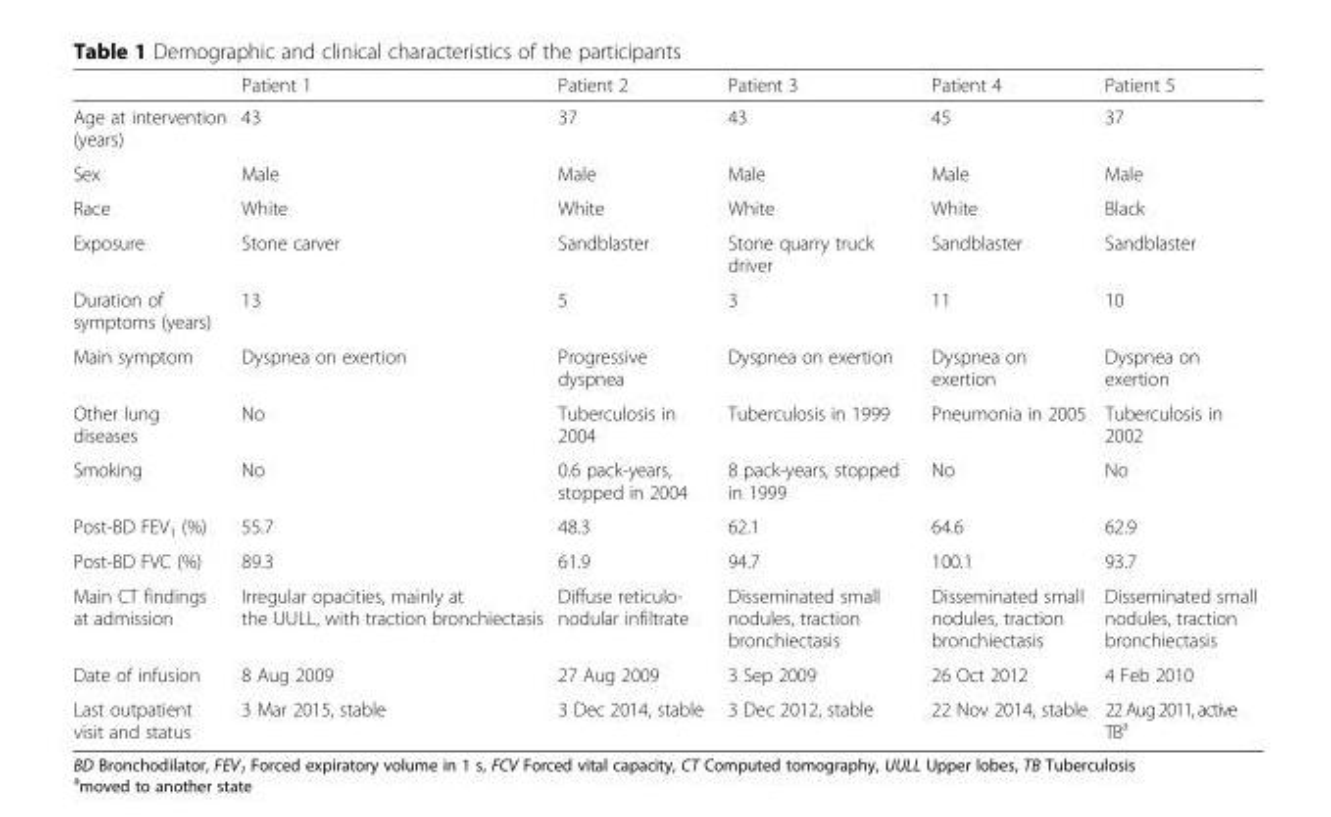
<table><thead><tr><td></td><td>Patient 1</td><td>Patient 2</td><td>Patient 3</td><td>Patient 4</td><td>Patient 5</td></tr></thead><tbody><tr><td>Age at intervention (years)</td><td>43</td><td>37</td><td>43</td><td>45</td><td>37</td></tr><tr><td>Sex</td><td>Male</td><td>Male</td><td>Male</td><td>Male</td><td>Male</td></tr><tr><td>Race</td><td>White</td><td>White</td><td>White</td><td>White</td><td>Black</td></tr><tr><td>Exposure</td><td>Stone carver</td><td>Sandblaster</td><td>Stone quarry truck driver</td><td>Sandblaster</td><td>Sandblaster</td></tr><tr><td>Duration of symptoms (years)</td><td>13</td><td>5</td><td>3</td><td>11</td><td>10</td></tr><tr><td>Main symptom</td><td>Dyspnea on exertion</td><td>Progressive dyspnea</td><td>Dyspnea on exertion</td><td>Dyspnea on exertion</td><td>Dyspnea on exertion</td></tr><tr><td>Other lung diseases</td><td>No</td><td>Tuberculosis in 2004</td><td>Tuberculosis in 1999</td><td>Pneumonia in 2005</td><td>Tuberculosis in 2002</td></tr><tr><td>Smoking</td><td>No</td><td>0.6 pack-years, stopped in 2004</td><td>8 pack-years, stopped in 1999</td><td>No</td><td>No</td></tr><tr><td>Post-BD FEV<sub>1</sub> (%)</td><td>55.7</td><td>48.3</td><td>62.1</td><td>64.6</td><td>62.9</td></tr><tr><td>Post-BD FVC (%)</td><td>89.3</td><td>61.9</td><td>94.7</td><td>100.1</td><td>93.7</td></tr><tr><td>Main CT findings at admission</td><td>Irregular opacities, mainly at the UULL, with traction bronchiectasis</td><td>Diffuse reticulo- nodular infiltrate</td><td>Disseminated small nodules, traction bronchiectasis</td><td>Disseminated small nodules, traction bronchiectasis</td><td>Disseminated small nodules, traction bronchiectasis</td></tr><tr><td>Date of infusion</td><td>8 Aug 2009</td><td>27 Aug 2009</td><td>3 Sep 2009</td><td>26 Oct 2012</td><td>4 Feb 2010</td></tr><tr><td>Last outpatient visit and status</td><td>3 Mar 2015, stable</td><td>3 Dec 2014, stable</td><td>3 Dec 2012, stable</td><td>22 Nov 2014, stable</td><td>22Aug2011,active TB<sup>a</sup></td></tr></tbody></table>